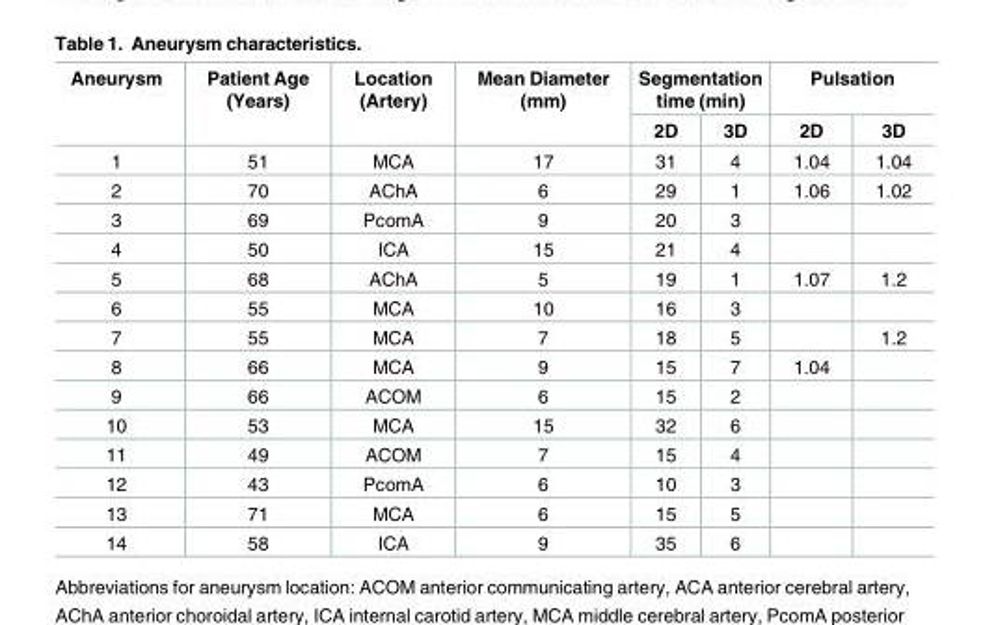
<table><thead><tr><td rowspan="2">Aneurysm</td><td rowspan="2">Patient Age (Years)</td><td rowspan="2">Location (Artery)</td><td rowspan="2">Mean Diameter (mm)</td><td colspan="2">Segmentation time (min)</td><td colspan="2">Pulsation</td></tr><tr><td>2D</td><td>3D</td><td>2D</td><td>3D</td></tr></thead><tbody><tr><td>1</td><td>51</td><td>MCA</td><td>17</td><td>31</td><td>4</td><td>1.04</td><td>1.04</td></tr><tr><td>2</td><td>70</td><td>AChA</td><td>6</td><td>29</td><td>1</td><td>1.06</td><td>1.02</td></tr><tr><td>3</td><td>69</td><td>PcomA</td><td>9</td><td>20</td><td>3</td><td></td><td></td></tr><tr><td>4</td><td>50</td><td>ICA</td><td>15</td><td>21</td><td>4</td><td></td><td></td></tr><tr><td>5</td><td>68</td><td>AChA</td><td>5</td><td>19</td><td>1</td><td>1.07</td><td>1.2</td></tr><tr><td>6</td><td>55</td><td>MCA</td><td>10</td><td>16</td><td>3</td><td></td><td></td></tr><tr><td>7</td><td>55</td><td>MCA</td><td>7</td><td>18</td><td>5</td><td></td><td>1.2</td></tr><tr><td>8</td><td>66</td><td>MCA</td><td>9</td><td>15</td><td>7</td><td>1.04</td><td></td></tr><tr><td>9</td><td>66</td><td>ACOM</td><td>6</td><td>15</td><td>2</td><td></td><td></td></tr><tr><td>10</td><td>53</td><td>MCA</td><td>15</td><td>32</td><td>6</td><td></td><td></td></tr><tr><td>11</td><td>49</td><td>ACOM</td><td>7</td><td>15</td><td>4</td><td></td><td></td></tr><tr><td>12</td><td>43</td><td>PcomA</td><td>6</td><td>10</td><td>3</td><td></td><td></td></tr><tr><td>13</td><td>71</td><td>MCA</td><td>6</td><td>15</td><td>5</td><td></td><td></td></tr><tr><td>14</td><td>58</td><td>ICA</td><td>9</td><td>35</td><td>6</td><td></td><td></td></tr></tbody></table>